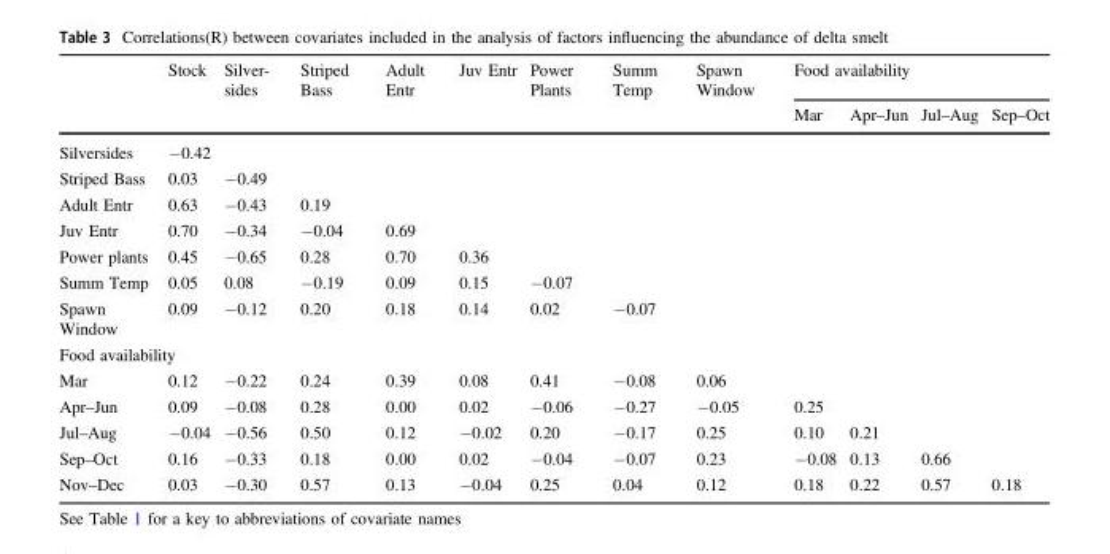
<table><thead><tr><td rowspan="2"></td><td rowspan="2">Stock</td><td rowspan="2">Silver- sides</td><td rowspan="2">Striped Bass</td><td rowspan="2">Adult Entr</td><td rowspan="2">Juv Entr</td><td rowspan="2">Power Plants</td><td rowspan="2">Summ Temp</td><td rowspan="2">Spawn Window</td><td colspan="4">Food availability</td></tr><tr><td>Mar</td><td>Apr–Jun</td><td>Jul–Aug</td><td>Sep–Oct</td></tr></thead><tbody><tr><td>Silversides</td><td>−0.42</td><td></td><td></td><td></td><td></td><td></td><td></td><td></td><td></td><td></td><td></td><td></td></tr><tr><td>Striped Bass</td><td>0.03</td><td>−0.49</td><td></td><td></td><td></td><td></td><td></td><td></td><td></td><td></td><td></td><td></td></tr><tr><td>Adult Entr</td><td>0.63</td><td>−0.43</td><td>0.19</td><td></td><td></td><td></td><td></td><td></td><td></td><td></td><td></td><td></td></tr><tr><td>Juv Entr</td><td>0.70</td><td>−0.34</td><td>−0.04</td><td>0.69</td><td></td><td></td><td></td><td></td><td></td><td></td><td></td><td></td></tr><tr><td>Power plants</td><td>0.45</td><td>−0.65</td><td>0.28</td><td>0.70</td><td>0.36</td><td></td><td></td><td></td><td></td><td></td><td></td><td></td></tr><tr><td>Summ Temp</td><td>0.05</td><td>0.08</td><td>−0.19</td><td>0.09</td><td>0.15</td><td>−0.07</td><td></td><td></td><td></td><td></td><td></td><td></td></tr><tr><td>Spawn Window</td><td>0.09</td><td>−0.12</td><td>0.20</td><td>0.18</td><td>0.14</td><td>0.02</td><td>−0.07</td><td></td><td></td><td></td><td></td><td></td></tr><tr><td colspan="13">Food availability</td></tr><tr><td>Mar</td><td>0.12</td><td>−0.22</td><td>0.24</td><td>0.39</td><td>0.08</td><td>0.41</td><td>−0.08</td><td>0.06</td><td></td><td></td><td></td><td></td></tr><tr><td>Apr–Jun</td><td>0.09</td><td>−0.08</td><td>0.28</td><td>0.00</td><td>0.02</td><td>−0.06</td><td>−0.27</td><td>−0.05</td><td>0.25</td><td></td><td></td><td></td></tr><tr><td>Jul–Aug</td><td>−0.04</td><td>−0.56</td><td>0.50</td><td>0.12</td><td>−0.02</td><td>0.20</td><td>−0.17</td><td>0.25</td><td>0.10</td><td>0.21</td><td></td><td></td></tr><tr><td>Sep–Oct</td><td>0.16</td><td>−0.33</td><td>0.18</td><td>0.00</td><td>0.02</td><td>−0.04</td><td>−0.07</td><td>0.23</td><td>−0.08</td><td>0.13</td><td>0.66</td><td></td></tr><tr><td>Nov–Dec</td><td>0.03</td><td>−0.30</td><td>0.57</td><td>0.13</td><td>−0.04</td><td>0.25</td><td>0.04</td><td>0.12</td><td>0.18</td><td>0.22</td><td>0.57</td><td>0.18</td></tr></tbody></table>